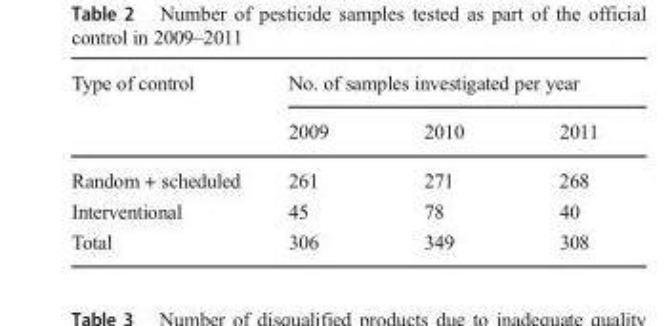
<table><thead><tr><td rowspan="2">Type of control</td><td colspan="3">No. of samples investigated per year</td></tr><tr><td>2009</td><td>2010</td><td>2011</td></tr></thead><tbody><tr><td>Random + scheduled</td><td>261</td><td>271</td><td>268</td></tr><tr><td>Interventional</td><td>45</td><td>78</td><td>40</td></tr><tr><td>Total</td><td>306</td><td>349</td><td>308</td></tr></tbody></table>